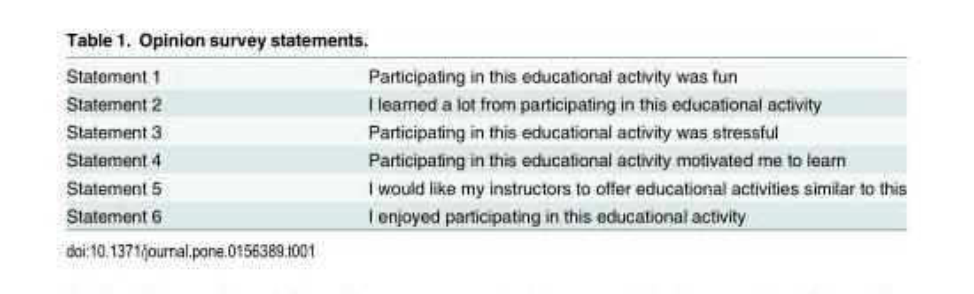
<table><tbody><tr><td>Statement 1</td><td>Participating in this educational activity was fun</td></tr><tr><td>Statement 2</td><td>I learned a lot from participating in this educational activity</td></tr><tr><td>Statement 3</td><td>Participating in this educational activity was stressful</td></tr><tr><td>Statement 4</td><td>Participating in this educational activity motivated me to learn</td></tr><tr><td>Statement 5</td><td>I would like my instructors to offer educational activities similar to this</td></tr><tr><td>Statement 6</td><td>I enjoyed participating in this educational activity</td></tr></tbody></table>